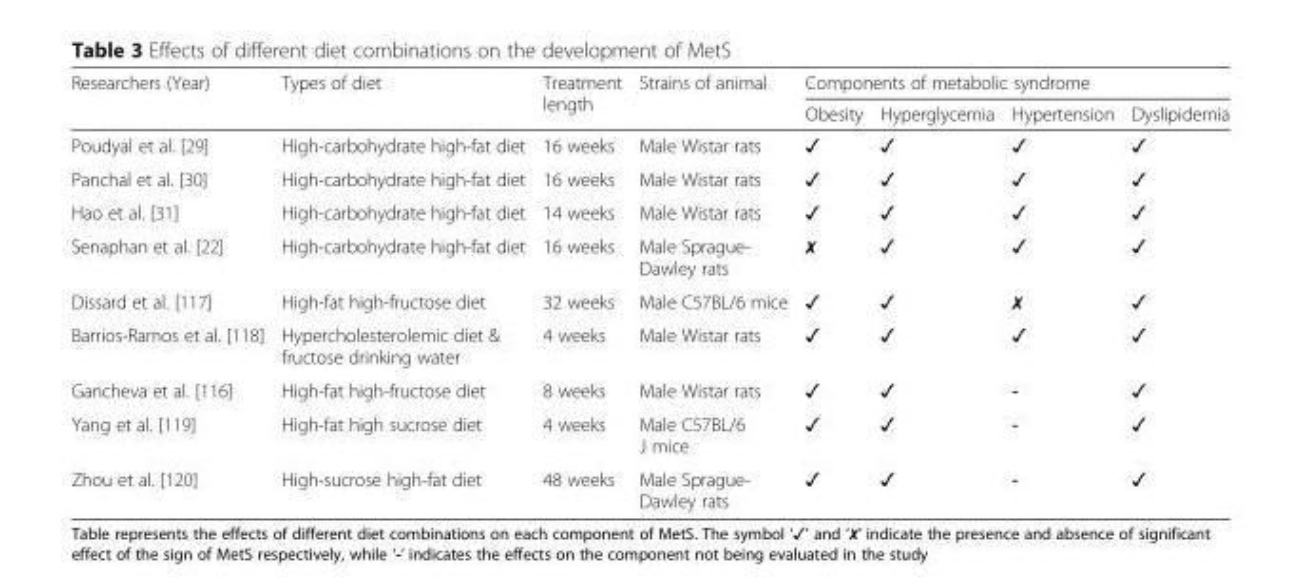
<table><thead><tr><td rowspan="2">Researchers (Year)</td><td rowspan="2">Types of diet</td><td rowspan="2">Treatment length</td><td rowspan="2">Strains of animal</td><td colspan="4">Components of metabolic syndrome</td></tr><tr><td>Obesity</td><td>Hyperglycemia</td><td>Hypertension</td><td>Dyslipidemia</td></tr></thead><tbody><tr><td>Poudyal et al. [29]</td><td>High-carbohydrate high-fat diet</td><td>16 weeks</td><td>Male Wistar rats</td><td>✓</td><td>✓</td><td>✓</td><td>✓</td></tr><tr><td>Panchal et al. [30]</td><td>High-carbohydrate high-fat diet</td><td>16 weeks</td><td>Male Wistar rats</td><td>✓</td><td>✓</td><td>✓</td><td>✓</td></tr><tr><td>Hao et al. [31]</td><td>High-carbohydrate high-fat diet</td><td>14 weeks</td><td>Male Wistar rats</td><td>✓</td><td>✓</td><td>✓</td><td>✓</td></tr><tr><td>Senaphan et al. [22]</td><td>High-carbohydrate high-fat diet</td><td>16 weeks</td><td>Male Sprague- Dawley rats</td><td>✗</td><td>✓</td><td>✓</td><td>✓</td></tr><tr><td>Dissard et al. [117]</td><td>High-fat high-fructose diet</td><td>32 weeks</td><td>Male C57BL/6 mice</td><td>✓</td><td>✓</td><td>✗</td><td>✓</td></tr><tr><td>Barrios-Ramos et al. [118]</td><td>Hypercholesterolemic diet &amp; fructose drinking water</td><td>4 weeks</td><td>Male Wistar rats</td><td>✓</td><td>✓</td><td>✓</td><td>✓</td></tr><tr><td>Gancheva et al. [116]</td><td>High-fat high-fructose diet</td><td>8 weeks</td><td>Male Wistar rats</td><td>✓</td><td>✓</td><td>-</td><td>✓</td></tr><tr><td>Yang et al. [119]</td><td>High-fat high sucrose diet</td><td>4 weeks</td><td>Male C57BL/6 J mice</td><td>✓</td><td>✓</td><td>-</td><td>✓</td></tr><tr><td>Zhou et al. [120]</td><td>High-sucrose high-fat diet</td><td>48 weeks</td><td>Male Sprague- Dawley rats</td><td>✓</td><td>✓</td><td>-</td><td>✓</td></tr></tbody></table>